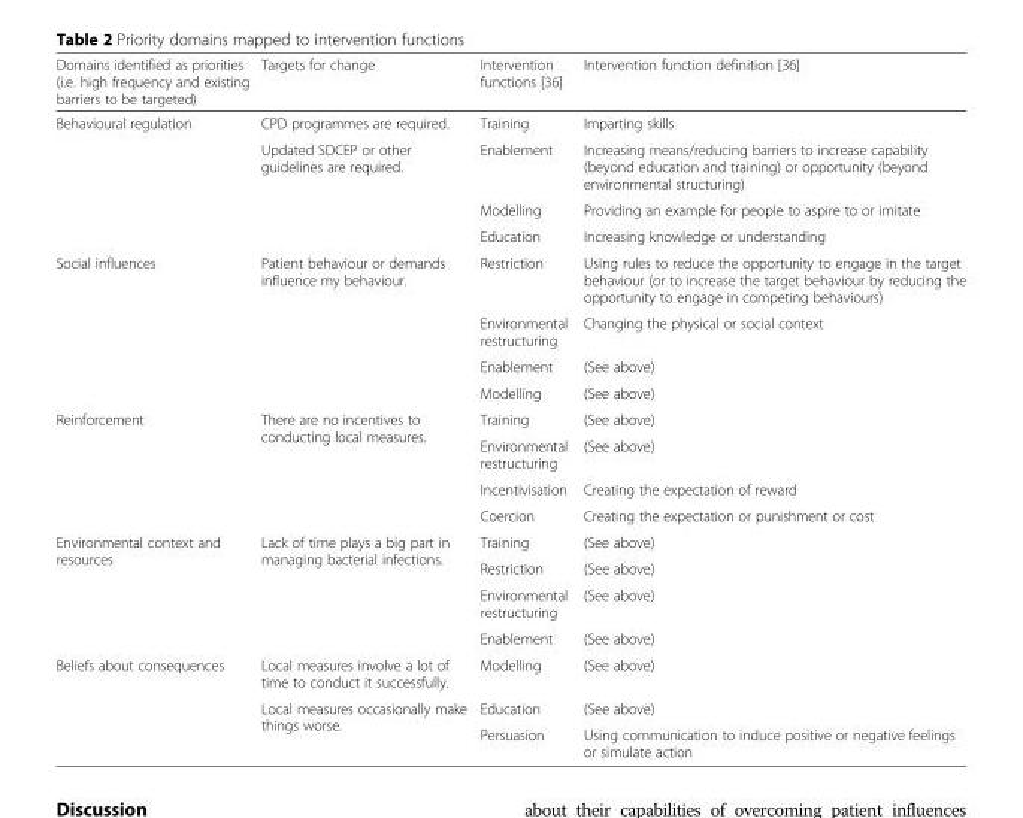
<table><thead><tr><td>Domains identified as priorities (i.e. high frequency and existing barriers to be targeted)</td><td>Targets for change</td><td>Intervention functions [36]</td><td>Intervention function definition [36]</td></tr></thead><tbody><tr><td rowspan="4">Behavioural regulation</td><td>CPD programmes are required.</td><td>Training</td><td>Imparting skills</td></tr><tr><td rowspan="3">Updated SDCEP or other guidelines are required.</td><td>Enablement</td><td>Increasing means/reducing barriers to increase capability (beyond education and training) or opportunity (beyond environmental structuring)</td></tr><tr><td>Modelling</td><td>Providing an example for people to aspire to or imitate</td></tr><tr><td>Education</td><td>Increasing knowledge or understanding</td></tr><tr><td rowspan="4">Social influences</td><td rowspan="4">Patient behaviour or demands influence my behaviour.</td><td>Restriction</td><td>Using rules to reduce the opportunity to engage in the target behaviour (or to increase the target behaviour by reducing the opportunity to engage in competing behaviours)</td></tr><tr><td>Environmental restructuring</td><td>Changing the physical or social context</td></tr><tr><td>Enablement</td><td>(See above)</td></tr><tr><td>Modelling</td><td>(See above)</td></tr><tr><td rowspan="4">Reinforcement</td><td rowspan="4">There are no incentives to conducting local measures.</td><td>Training</td><td>(See above)</td></tr><tr><td>Environmental restructuring</td><td>(See above)</td></tr><tr><td>Incentivisation</td><td>Creating the expectation of reward</td></tr><tr><td>Coercion</td><td>Creating the expectation or punishment or cost</td></tr><tr><td rowspan="4">Environmental context and resources</td><td rowspan="4">Lack of time plays a big part in managing bacterial infections.</td><td>Training</td><td>(See above)</td></tr><tr><td>Restriction</td><td>(See above)</td></tr><tr><td>Environmental restructuring</td><td>(See above)</td></tr><tr><td>Enablement</td><td>(See above)</td></tr><tr><td rowspan="3">Beliefs about consequences</td><td>Local measures involve a lot of time to conduct it successfully.</td><td>Modelling</td><td>(See above)</td></tr><tr><td rowspan="2">Local measures occasionally make things worse.</td><td>Education</td><td>(See above)</td></tr><tr><td>Persuasion</td><td>Using communication to induce positive or negative feelings or simulate action</td></tr></tbody></table>